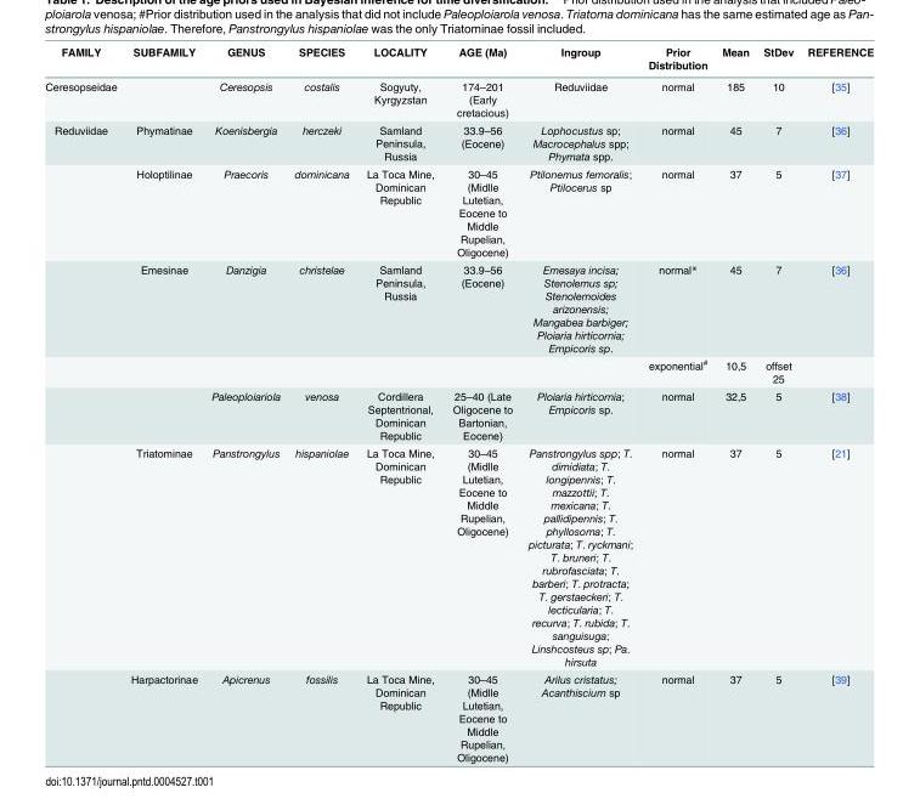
<table><thead><tr><td>FAMILY</td><td>SUBFAMILY</td><td>GENUS</td><td>SPECIES</td><td>LOCALITY</td><td>AGE (Ma)</td><td>Ingroup</td><td>Prior Distribution</td><td>Mean</td><td>StDev</td><td>REFERENCE</td></tr></thead><tbody><tr><td>Ceresopseidae</td><td></td><td>Ceresopsis</td><td>costalis</td><td>Sogyuty, Kyrgyzstan</td><td>174–201 (Early cretacious)</td><td>Reduviidae</td><td>normal</td><td>185</td><td>10</td><td>[35]</td></tr><tr><td rowspan="7">Reduviidae</td><td>Phymatinae</td><td>Koenisbergia</td><td>herczeki</td><td>Samland Peninsula, Russia</td><td>33.9–56 (Eocene)</td><td>Lophocustus sp; Macrocephalus spp; Phymata spp.</td><td>normal</td><td>45</td><td>7</td><td>[36]</td></tr><tr><td>Holoptilinae</td><td>Praecoris</td><td>dominicana</td><td>La Toca Mine, Dominican Republic</td><td>30–45 (Midlle Lutetian, Eocene to Middle Rupelian, Oligocene)</td><td>Ptilonemus femoralis; Ptilocerus sp</td><td>normal</td><td>37</td><td>5</td><td>[37]</td></tr><tr><td>Emesinae</td><td>Danzigia</td><td>christelae</td><td>Samland Peninsula, Russia</td><td>33.9–56 (Eocene)</td><td>Emesaya incisa; Stenolemus sp; Stenolemoides arizonensis; Mangabea barbiger; Ploiaria hirticornia; Empicoris sp.</td><td>normal*</td><td>45</td><td>7</td><td>[36]</td></tr><tr><td></td><td></td><td></td><td></td><td></td><td></td><td>exponential<sup>#</sup></td><td>10,5</td><td>offset 25</td><td></td></tr><tr><td></td><td>Paleoploiariola</td><td>venosa</td><td>Cordillera Septentrional, Dominican Republic</td><td>25–40 (Late Oligocene to Bartonian, Eocene)</td><td>Ploiaria hirticornia; Empicoris sp.</td><td>normal</td><td>32,5</td><td>5</td><td>[38]</td></tr><tr><td>Triatominae</td><td>Panstrongylus</td><td>hispaniolae</td><td>La Toca Mine, Dominican Republic</td><td>30–45 (Midlle Lutetian, Eocene to Middle Rupelian, Oligocene)</td><td>Panstrongylus spp; T. dimidiata; T. longipennis; T. mazzottii; T. mexicana; T. pallidipennis; T. phyllosoma; T. picturata; T. ryckmani; T. bruneri; T. rubrofasciata; T. barberi; T. protracta; T. gerstaeckeri; T. lecticularia; T. recurva; T. rubida; T. sanguisuga; Linshcosteus sp; Pa. hirsuta</td><td>normal</td><td>37</td><td>5</td><td>[21]</td></tr><tr><td>Harpactorinae</td><td>Apicrenus</td><td>fossilis</td><td>La Toca Mine, Dominican Republic</td><td>30–45 (Midlle Lutetian, Eocene to Middle Rupelian, Oligocene)</td><td>Arilus cristatus; Acanthiscium sp</td><td>normal</td><td>37</td><td>5</td><td>[39]</td></tr></tbody></table>